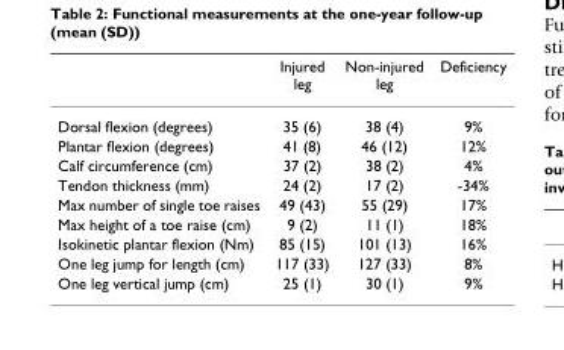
<table><thead><tr><td></td><td>Injured leg</td><td>Non-injured leg</td><td>Deficiency</td></tr></thead><tbody><tr><td>Dorsal flexion (degrees)</td><td>35 (6)</td><td>38 (4)</td><td>9%</td></tr><tr><td>Plantar flexion (degrees)</td><td>41 (8)</td><td>46 (12)</td><td>12%</td></tr><tr><td>Calf circumference (cm)</td><td>37 (2)</td><td>38 (2)</td><td>4%</td></tr><tr><td>Tendon thickness (mm)</td><td>24 (2)</td><td>17 (2)</td><td>-34%</td></tr><tr><td>Max number of single toe raises</td><td>49 (43)</td><td>55 (29)</td><td>17%</td></tr><tr><td>Max height of a toe raise (cm)</td><td>9 (2)</td><td>11 (1)</td><td>18%</td></tr><tr><td>Isokinetic plantar flexion (Nm)</td><td>85 (15)</td><td>101 (13)</td><td>16%</td></tr><tr><td>One leg jump for length (cm)</td><td>117 (33)</td><td>127 (33)</td><td>8%</td></tr><tr><td>One leg vertical jump (cm)</td><td>25 (1)</td><td>30 (1)</td><td>9%</td></tr></tbody></table>